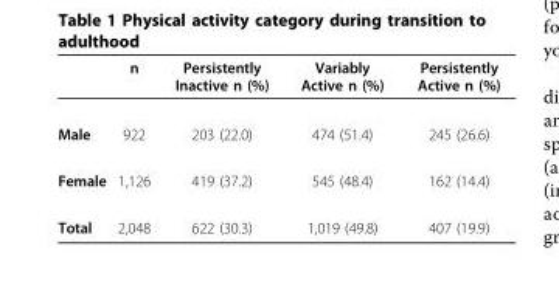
<table><thead><tr><td></td><td>n</td><td>Persistently Inactive n (%)</td><td>Variably Active n (%)</td><td>Persistently Active n (%)</td></tr></thead><tbody><tr><td>Male</td><td>922</td><td>203 (22.0)</td><td>474 (51.4)</td><td>245 (26.6)</td></tr><tr><td>Female</td><td>1,126</td><td>419 (37.2)</td><td>545 (48.4)</td><td>162 (14.4)</td></tr><tr><td>Total</td><td>2,048</td><td>622 (30.3)</td><td>1,019 (49.8)</td><td>407 (19.9)</td></tr></tbody></table>